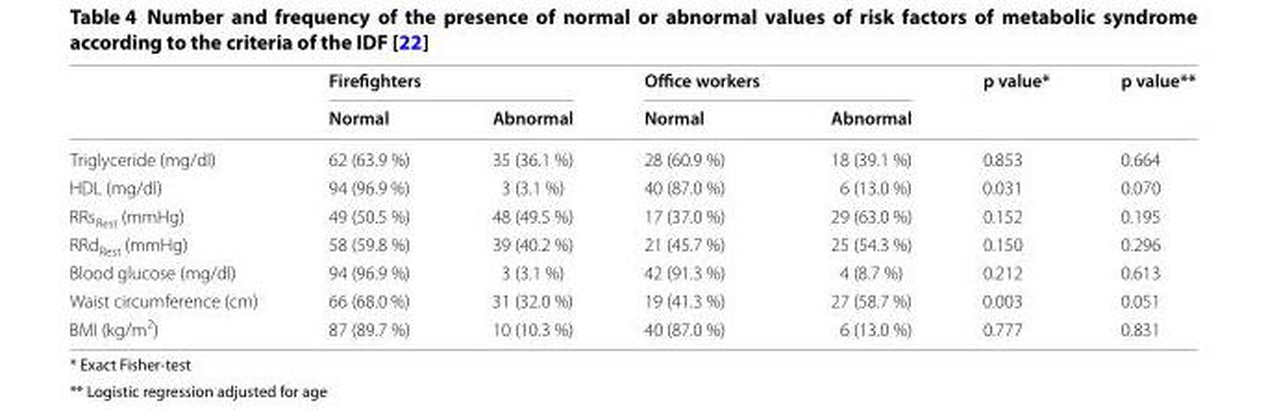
<table><thead><tr><td rowspan="2"></td><td colspan="2">Firefighters</td><td colspan="2">Office workers</td><td rowspan="2">p value*</td><td rowspan="2">p value**</td></tr><tr><td>Normal</td><td>Abnormal</td><td>Normal</td><td>Abnormal</td></tr></thead><tbody><tr><td>Triglyceride (mg/dl)</td><td>62 (63.9 %)</td><td>35 (36.1 %)</td><td>28 (60.9 %)</td><td>18 (39.1 %)</td><td>0.853</td><td>0.664</td></tr><tr><td>HDL (mg/dl)</td><td>94 (96.9 %)</td><td>3 (3.1 %)</td><td>40 (87.0 %)</td><td>6 (13.0 %)</td><td>0.031</td><td>0.070</td></tr><tr><td>RRs<sub>Rest</sub> (mmHg)</td><td>49 (50.5 %)</td><td>48 (49.5 %)</td><td>17 (37.0 %)</td><td>29 (63.0 %)</td><td>0.152</td><td>0.195</td></tr><tr><td>RRd<sub>Rest</sub> (mmHg)</td><td>58 (59.8 %)</td><td>39 (40.2 %)</td><td>21 (45.7 %)</td><td>25 (54.3 %)</td><td>0.150</td><td>0.296</td></tr><tr><td>Blood glucose (mg/dl)</td><td>94 (96.9 %)</td><td>3 (3.1 %)</td><td>42 (91.3 %)</td><td>4 (8.7 %)</td><td>0.212</td><td>0.613</td></tr><tr><td>Waist circumference (cm)</td><td>66 (68.0 %)</td><td>31 (32.0 %)</td><td>19 (41.3 %)</td><td>27 (58.7 %)</td><td>0.003</td><td>0.051</td></tr><tr><td>BMI (kg/m<sup>2</sup>)</td><td>87 (89.7 %)</td><td>10 (10.3 %)</td><td>40 (87.0 %)</td><td>6 (13.0 %)</td><td>0.777</td><td>0.831</td></tr></tbody></table>